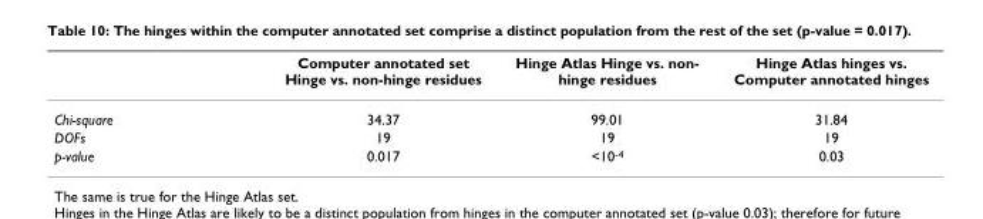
<table><thead><tr><td></td><td>Computer annotated set Hinge vs. non-hinge residues</td><td>Hinge Atlas Hinge vs. non- hinge residues</td><td>Hinge Atlas hinges vs. Computer annotated hinges</td></tr></thead><tbody><tr><td>Chi-square</td><td>34.37</td><td>99.01</td><td>31.84</td></tr><tr><td>DOFs</td><td>19</td><td>19</td><td>19</td></tr><tr><td>p-value</td><td>0.017</td><td>&lt;10<sup>-4</sup></td><td>0.03</td></tr></tbody></table>